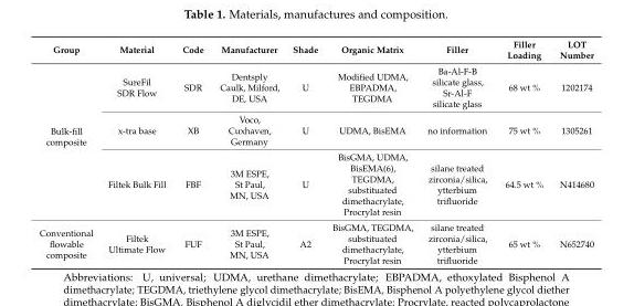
<table><thead><tr><td>Group</td><td>Material</td><td>Code</td><td>Manufacturer</td><td>Shade</td><td>Organic Matrix</td><td>Filler</td><td>Filler Loading</td><td>LOT Number</td></tr></thead><tbody><tr><td rowspan="3">Bulk-fill composite</td><td>SureFil SDR Flow</td><td>SDR</td><td>Dentsply Caulk, Milford, DE, USA</td><td>U</td><td>Modified UDMA, EBPADMA, TEGDMA</td><td>Ba-Al-F-B silicate glass, Sr-Al-F silicate glass</td><td>68 wt %</td><td>1202174</td></tr><tr><td>x-tra base</td><td>XB</td><td>Voco, Cuxhaven, Germany</td><td>U</td><td>UDMA, BisEMA</td><td>no information</td><td>75 wt %</td><td>1305261</td></tr><tr><td>Filtek Bulk Fill</td><td>FBF</td><td>3M ESPE, St Paul, MN, USA</td><td>U</td><td>BisGMA, UDMA, BisEMA(6), TEGDMA, substituated dimethacrylate, Procrylat resin</td><td>silane treated zirconia/silica, ytterbium trifluoride</td><td>64.5 wt %</td><td>N414680</td></tr><tr><td>Conventional flowable composite</td><td>Filtek Ultimate Flow</td><td>FUF</td><td>3M ESPE, St Paul, MN, USA</td><td>A2</td><td>BisGMA, TEGDMA, substituated dimethacrylate, Procrylat resin</td><td>silane treated zirconia/silica, ytterbium trifluoride</td><td>65 wt %</td><td>N652740</td></tr></tbody></table>